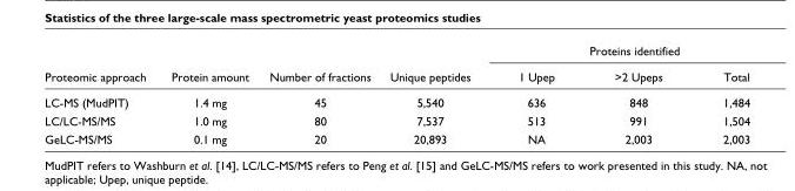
<table><thead><tr><td rowspan="2">Proteomic approach</td><td rowspan="2">Protein amount</td><td rowspan="2">Number of fractions</td><td rowspan="2">Unique peptides</td><td colspan="3">Proteins identified</td></tr><tr><td>1 Upep</td><td>&gt;2 Upeps</td><td>Total</td></tr></thead><tbody><tr><td>LC-MS (MudPIT)</td><td>1.4 mg</td><td>45</td><td>5,540</td><td>636</td><td>848</td><td>1,484</td></tr><tr><td>LC/LC-MS/MS</td><td>1.0 mg</td><td>80</td><td>7,537</td><td>513</td><td>991</td><td>1,504</td></tr><tr><td>GeLC-MS/MS</td><td>0.1 mg</td><td>20</td><td>20,893</td><td>NA</td><td>2,003</td><td>2,003</td></tr></tbody></table>